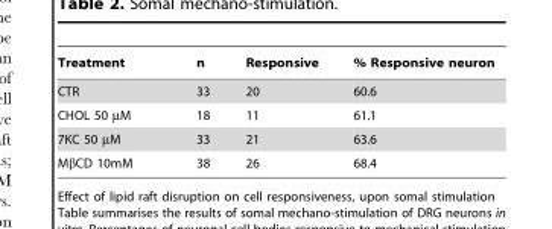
<table><thead><tr><td>Treatment</td><td>n</td><td>Responsive</td><td>% Responsive neuron</td></tr></thead><tbody><tr><td>CTR</td><td>33</td><td>20</td><td>60.6</td></tr><tr><td>CHOL 50 µM</td><td>18</td><td>11</td><td>61.1</td></tr><tr><td>7KC 50 µM</td><td>33</td><td>21</td><td>63.6</td></tr><tr><td>MβCD 10mM</td><td>38</td><td>26</td><td>68.4</td></tr></tbody></table>